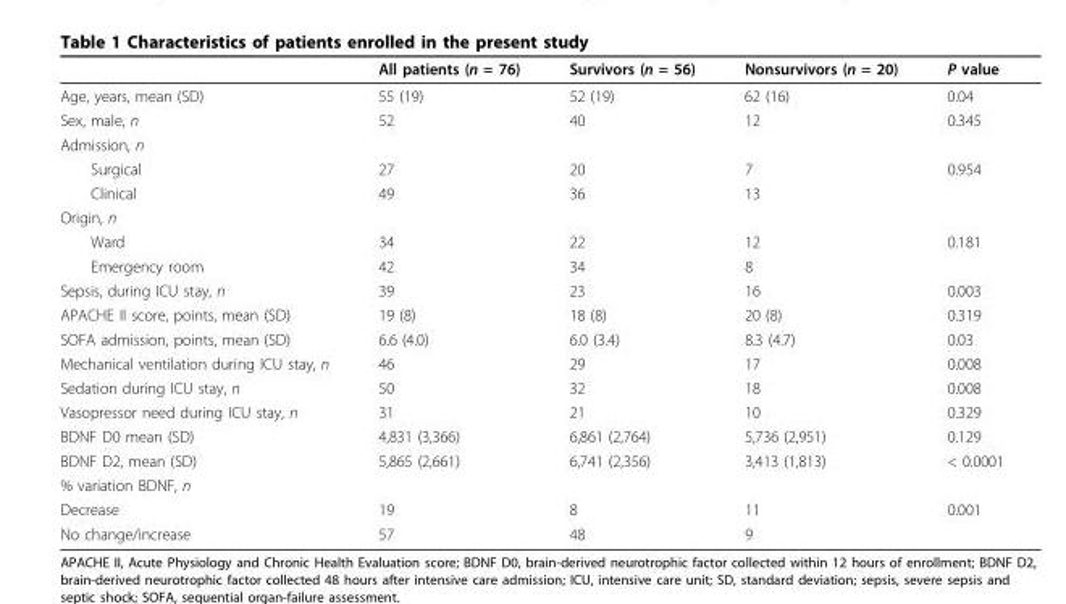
<table><thead><tr><td></td><td>All patients (n = 76)</td><td>Survivors (n = 56)</td><td>Nonsurvivors (n = 20)</td><td>P value</td></tr></thead><tbody><tr><td>Age, years, mean (SD)</td><td>55 (19)</td><td>52 (19)</td><td>62 (16)</td><td>0.04</td></tr><tr><td>Sex, male, n</td><td>52</td><td>40</td><td>12</td><td>0.345</td></tr><tr><td colspan="5">Admission, n</td></tr><tr><td>Surgical</td><td>27</td><td>20</td><td>7</td><td>0.954</td></tr><tr><td>Clinical</td><td>49</td><td>36</td><td>13</td><td></td></tr><tr><td colspan="5">Origin, n</td></tr><tr><td>Ward</td><td>34</td><td>22</td><td>12</td><td>0.181</td></tr><tr><td>Emergency room</td><td>42</td><td>34</td><td>8</td><td></td></tr><tr><td>Sepsis, during ICU stay, n</td><td>39</td><td>23</td><td>16</td><td>0.003</td></tr><tr><td>APACHE II score, points, mean (SD)</td><td>19 (8)</td><td>18 (8)</td><td>20 (8)</td><td>0.319</td></tr><tr><td>SOFA admission, points, mean (SD)</td><td>6.6 (4.0)</td><td>6.0 (3.4)</td><td>8.3 (4.7)</td><td>0.03</td></tr><tr><td>Mechanical ventilation during ICU stay, n</td><td>46</td><td>29</td><td>17</td><td>0.008</td></tr><tr><td>Sedation during ICU stay, n</td><td>50</td><td>32</td><td>18</td><td>0.008</td></tr><tr><td>Vasopressor need during ICU stay, n</td><td>31</td><td>21</td><td>10</td><td>0.329</td></tr><tr><td>BDNF D0 mean (SD)</td><td>4,831 (3,366)</td><td>6,861 (2,764)</td><td>5,736 (2,951)</td><td>0.129</td></tr><tr><td>BDNF D2, mean (SD)</td><td>5,865 (2,661)</td><td>6,741 (2,356)</td><td>3,413 (1,813)</td><td>&lt; 0.0001</td></tr><tr><td colspan="5">% variation BDNF, n</td></tr><tr><td>Decrease</td><td>19</td><td>8</td><td>11</td><td>0.001</td></tr><tr><td>No change/increase</td><td>57</td><td>48</td><td>9</td><td></td></tr></tbody></table>